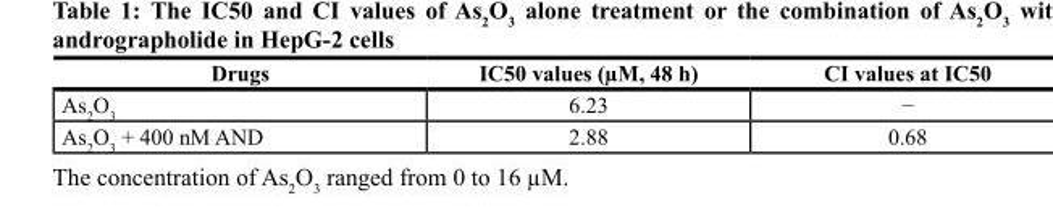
<table><thead><tr><td>Drugs</td><td>IC50 values (µM, 48 h)</td><td>CI values at IC50</td></tr></thead><tbody><tr><td>As<sub>2</sub>O<sub>3</sub></td><td>6.23</td><td>−</td></tr><tr><td>As<sub>2</sub>O<sub>3</sub> + 400 nM AND</td><td>2.88</td><td>0.68</td></tr></tbody></table>